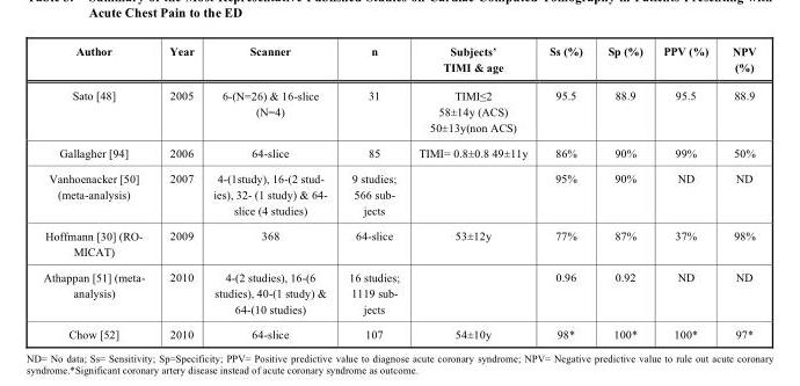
<table><thead><tr><td>Author</td><td>Year</td><td>Scanner</td><td>n</td><td>Subjects’ TIMI &amp; age</td><td>Ss (%)</td><td>Sp (%)</td><td>PPV (%)</td><td>NPV (%)</td></tr></thead><tbody><tr><td>Sato [48]</td><td>2005</td><td>6-(N=26) &amp; 16-slice (N=4)</td><td>31</td><td>TIMI≤2 58±14y (ACS) 50±13y(non ACS)</td><td>95.5</td><td>88.9</td><td>95.5</td><td>88.9</td></tr><tr><td>Gallagher [94]</td><td>2006</td><td>64-slice</td><td>85</td><td>TIMI= 0.8±0.8 49±11y</td><td>86%</td><td>90%</td><td>99%</td><td>50%</td></tr><tr><td>Vanhoenacker [50] (meta-analysis)</td><td>2007</td><td>4-(1study), 16-(2 stud- ies), 32- (1 study) &amp; 64- slice (4 studies)</td><td>9 studies; 566 sub- jects</td><td></td><td>95%</td><td>90%</td><td>ND</td><td>ND</td></tr><tr><td>Hoffmann [30] (RO- MICAT)</td><td>2009</td><td>368</td><td>64-slice</td><td>53±12y</td><td>77%</td><td>87%</td><td>37%</td><td>98%</td></tr><tr><td>Athappan [51] (meta- analysis)</td><td>2010</td><td>4-(2 studies), 16-(6 studies), 40-(1 study) &amp; 64-(10 studies)</td><td>16 studies; 1119 sub- jects</td><td></td><td>0.96</td><td>0.92</td><td>ND</td><td>ND</td></tr><tr><td>Chow [52]</td><td>2010</td><td>64-slice</td><td>107</td><td>54±10y</td><td>98*</td><td>100*</td><td>100*</td><td>97*</td></tr></tbody></table>